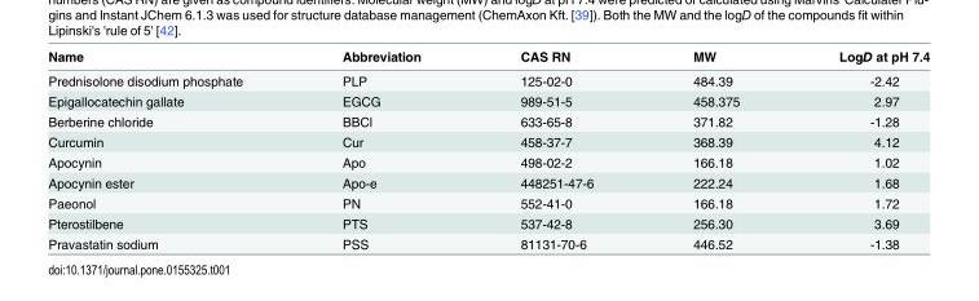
<table><thead><tr><td>Name</td><td>Abbreviation</td><td>CAS RN</td><td>MW</td><td>LogD at pH 7.4</td></tr></thead><tbody><tr><td>Prednisolone disodium phosphate</td><td>PLP</td><td>125-02-0</td><td>484.39</td><td>-2.42</td></tr><tr><td>Epigallocatechin gallate</td><td>EGCG</td><td>989-51-5</td><td>458.375</td><td>2.97</td></tr><tr><td>Berberine chloride</td><td>BBCl</td><td>633-65-8</td><td>371.82</td><td>-1.28</td></tr><tr><td>Curcumin</td><td>Cur</td><td>458-37-7</td><td>368.39</td><td>4.12</td></tr><tr><td>Apocynin</td><td>Apo</td><td>498-02-2</td><td>166.18</td><td>1.02</td></tr><tr><td>Apocynin ester</td><td>Apo-e</td><td>448251-47-6</td><td>222.24</td><td>1.68</td></tr><tr><td>Paeonol</td><td>PN</td><td>552-41-0</td><td>166.18</td><td>1.72</td></tr><tr><td>Pterostilbene</td><td>PTS</td><td>537-42-8</td><td>256.30</td><td>3.69</td></tr><tr><td>Pravastatin sodium</td><td>PSS</td><td>81131-70-6</td><td>446.52</td><td>-1.38</td></tr></tbody></table>